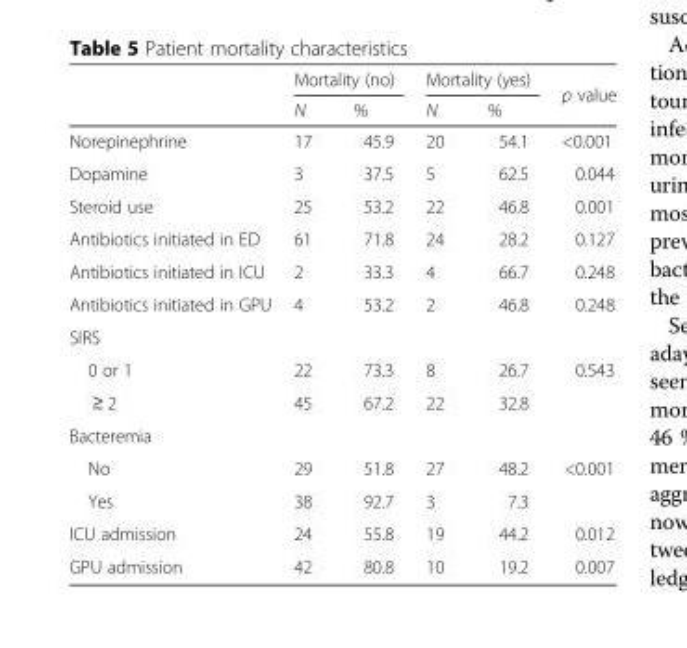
<table><thead><tr><td rowspan="2"></td><td colspan="2">Mortality (no)</td><td colspan="2">Mortality (yes)</td><td rowspan="2">p value</td></tr><tr><td>N</td><td>%</td><td>N</td><td>%</td></tr></thead><tbody><tr><td>Norepinephrine</td><td>17</td><td>45.9</td><td>20</td><td>54.1</td><td>&lt;0.001</td></tr><tr><td>Dopamine</td><td>3</td><td>37.5</td><td>5</td><td>62.5</td><td>0.044</td></tr><tr><td>Steroid use</td><td>25</td><td>53.2</td><td>22</td><td>46.8</td><td>0.001</td></tr><tr><td>Antibiotics initiated in ED</td><td>61</td><td>71.8</td><td>24</td><td>28.2</td><td>0.127</td></tr><tr><td>Antibiotics initiated in ICU</td><td>2</td><td>33.3</td><td>4</td><td>66.7</td><td>0.248</td></tr><tr><td>Antibiotics initiated in GPU</td><td>4</td><td>53.2</td><td>2</td><td>46.8</td><td>0.248</td></tr><tr><td colspan="6">SIRS</td></tr><tr><td>0 or 1</td><td>22</td><td>73.3</td><td>8</td><td>26.7</td><td rowspan="2">0.543</td></tr><tr><td>≥ 2</td><td>45</td><td>67.2</td><td>22</td><td>32.8</td></tr><tr><td colspan="6">Bacteremia</td></tr><tr><td>No</td><td>29</td><td>51.8</td><td>27</td><td>48.2</td><td rowspan="2">&lt;0.001</td></tr><tr><td>Yes</td><td>38</td><td>92.7</td><td>3</td><td>7.3</td></tr><tr><td>ICU admission</td><td>24</td><td>55.8</td><td>19</td><td>44.2</td><td>0.012</td></tr><tr><td>GPU admission</td><td>42</td><td>80.8</td><td>10</td><td>19.2</td><td>0.007</td></tr></tbody></table>